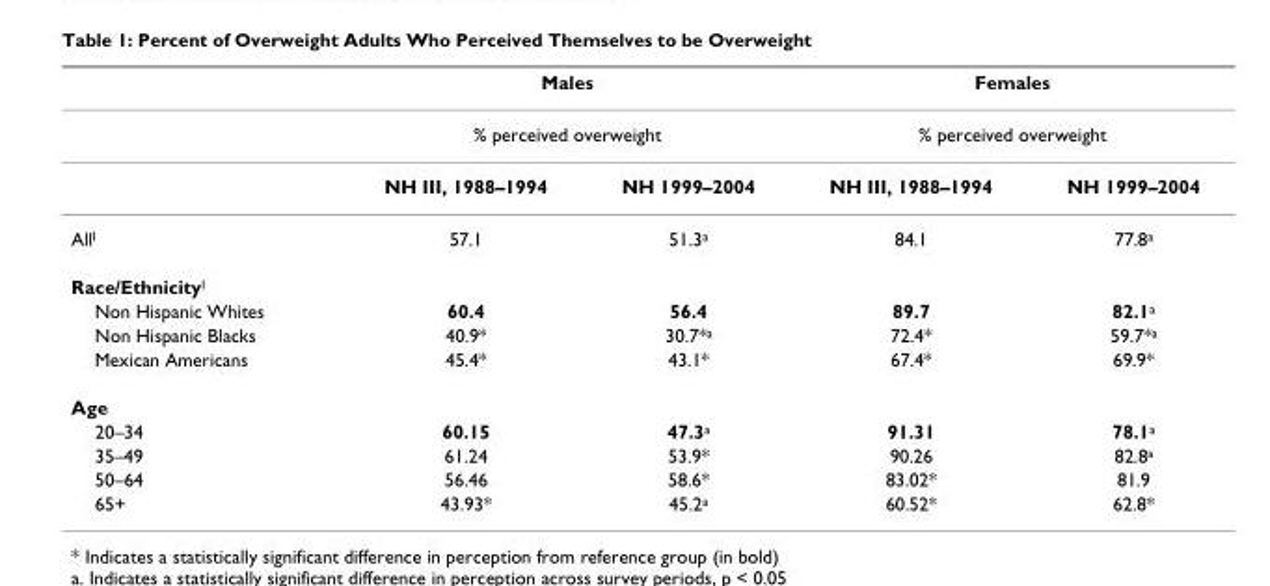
<table><thead><tr><td rowspan="3"></td><td rowspan="2" colspan="2">Males % perceived overweight</td><td rowspan="2" colspan="2">Females % perceived overweight</td></tr><tr></tr><tr><td>NH III, 1988–1994</td><td>NH 1999–2004</td><td>NH III, 1988–1994</td><td>NH 1999–2004</td></tr></thead><tbody><tr><td>All<sup>I</sup></td><td>57.1</td><td>51.3<sup>a</sup></td><td>84.1</td><td>77.8<sup>a</sup></td></tr><tr><td colspan="5">Race/Ethnicity<sup>I</sup></td></tr><tr><td>Non Hispanic Whites</td><td>60.4</td><td>56.4</td><td>89.7</td><td>82.1<sup>a</sup></td></tr><tr><td>Non Hispanic Blacks</td><td>40.9*</td><td>30.7*<sup>a</sup></td><td>72.4*</td><td>59.7*<sup>a</sup></td></tr><tr><td>Mexican Americans</td><td>45.4*</td><td>43.1*</td><td>67.4*</td><td>69.9*</td></tr><tr><td colspan="5">Age</td></tr><tr><td>20–34</td><td>60.15</td><td>47.3<sup>a</sup></td><td>91.31</td><td>78.1<sup>a</sup></td></tr><tr><td>35–49</td><td>61.24</td><td>53.9*</td><td>90.26</td><td>82.8<sup>a</sup></td></tr><tr><td>50–64</td><td>56.46</td><td>58.6*</td><td>83.02*</td><td>81.9</td></tr><tr><td>65+</td><td>43.93*</td><td>45.2<sup>a</sup></td><td>60.52*</td><td>62.8*</td></tr></tbody></table>